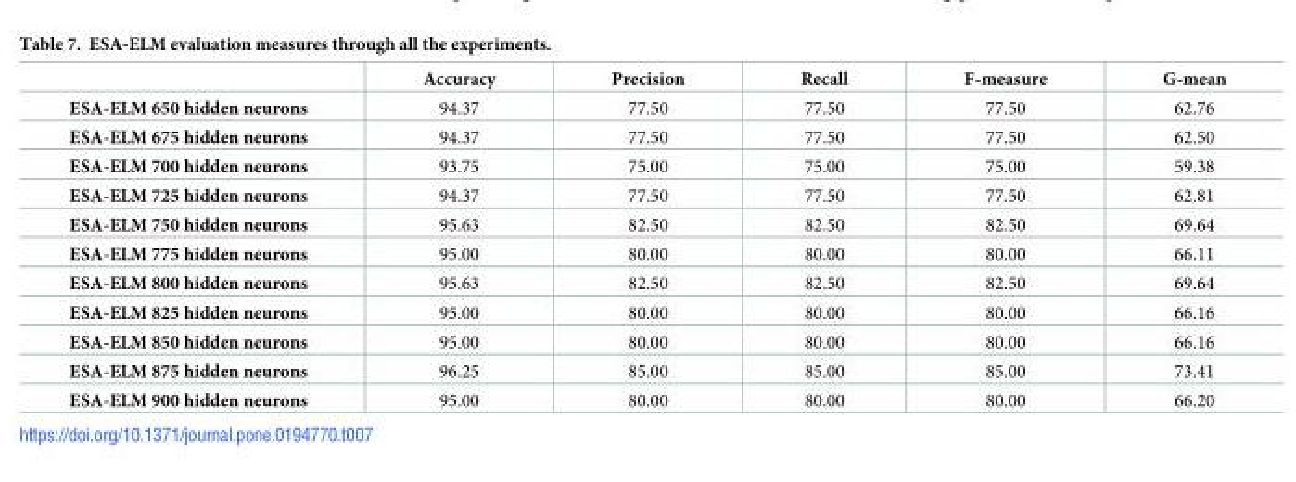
<table><thead><tr><td></td><td>Accuracy</td><td>Precision</td><td>Recall</td><td>F-measure</td><td>G-mean</td></tr></thead><tbody><tr><td>ESA-ELM 650 hidden neurons</td><td>94.37</td><td>77.50</td><td>77.50</td><td>77.50</td><td>62.76</td></tr><tr><td>ESA-ELM 675 hidden neurons</td><td>94.37</td><td>77.50</td><td>77.50</td><td>77.50</td><td>62.50</td></tr><tr><td>ESA-ELM 700 hidden neurons</td><td>93.75</td><td>75.00</td><td>75.00</td><td>75.00</td><td>59.38</td></tr><tr><td>ESA-ELM 725 hidden neurons</td><td>94.37</td><td>77.50</td><td>77.50</td><td>77.50</td><td>62.81</td></tr><tr><td>ESA-ELM 750 hidden neurons</td><td>95.63</td><td>82.50</td><td>82.50</td><td>82.50</td><td>69.64</td></tr><tr><td>ESA-ELM 775 hidden neurons</td><td>95.00</td><td>80.00</td><td>80.00</td><td>80.00</td><td>66.11</td></tr><tr><td>ESA-ELM 800 hidden neurons</td><td>95.63</td><td>82.50</td><td>82.50</td><td>82.50</td><td>69.64</td></tr><tr><td>ESA-ELM 825 hidden neurons</td><td>95.00</td><td>80.00</td><td>80.00</td><td>80.00</td><td>66.16</td></tr><tr><td>ESA-ELM 850 hidden neurons</td><td>95.00</td><td>80.00</td><td>80.00</td><td>80.00</td><td>66.16</td></tr><tr><td>ESA-ELM 875 hidden neurons</td><td>96.25</td><td>85.00</td><td>85.00</td><td>85.00</td><td>73.41</td></tr><tr><td>ESA-ELM 900 hidden neurons</td><td>95.00</td><td>80.00</td><td>80.00</td><td>80.00</td><td>66.20</td></tr></tbody></table>